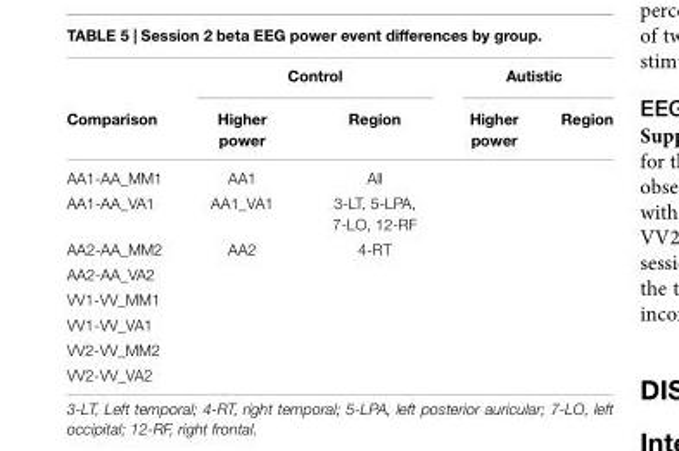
<table><thead><tr><td rowspan="2">Comparison</td><td colspan="2">Control</td><td colspan="2">Autistic</td></tr><tr><td>Higher power</td><td>Region</td><td>Higher power</td><td>Region</td></tr></thead><tbody><tr><td>AA1-AA_MM1</td><td>AA1</td><td>All</td><td></td><td></td></tr><tr><td>AA1-AA_VA1</td><td>AA1_VA1</td><td>3-LT, 5-LPA, 7-LO, 12-RF</td><td></td><td></td></tr><tr><td>AA2-AA_MM2</td><td>AA2</td><td>4-RT</td><td></td><td></td></tr><tr><td colspan="5">AA2-AA_VA2</td></tr><tr><td colspan="5">VV1-VV_MM1</td></tr><tr><td colspan="5">VV1-VV_VA1</td></tr><tr><td colspan="5">VV2-VV_MM2</td></tr><tr><td>VV2-VV_VA2</td><td></td><td></td><td></td><td></td></tr></tbody></table>